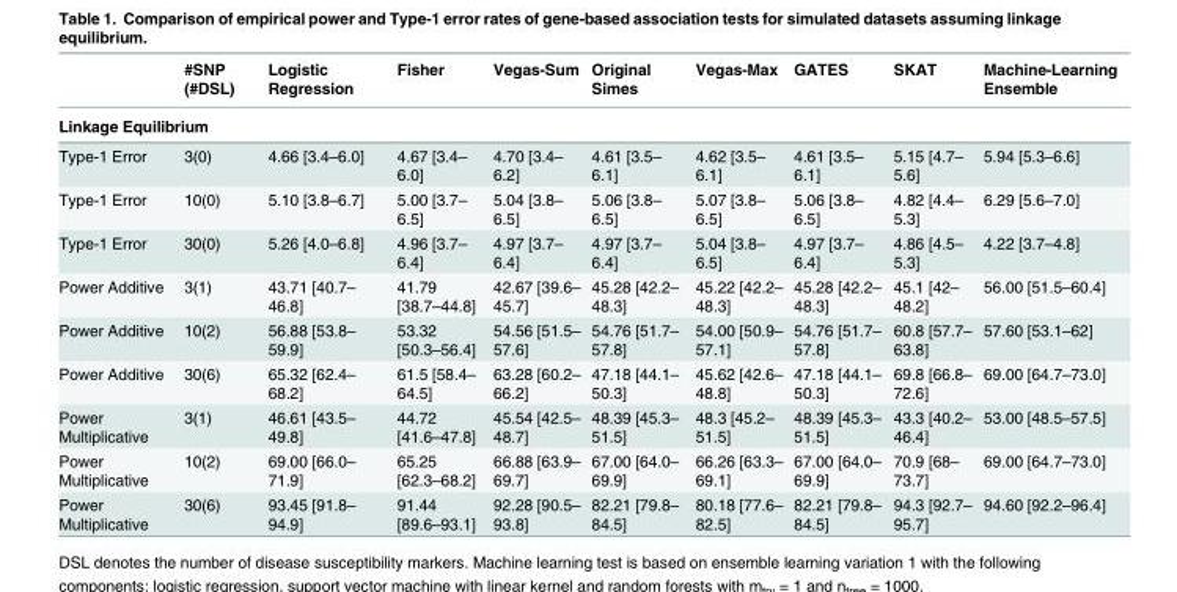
<table><thead><tr><td></td><td>#SNP (#DSL)</td><td>Logistic Regression</td><td>Fisher</td><td>Vegas-Sum</td><td>Original Simes</td><td>Vegas-Max</td><td>GATES</td><td>SKAT</td><td>Machine-Learning Ensemble</td></tr><tr><td colspan="10">Linkage Equilibrium</td></tr></thead><tbody><tr><td>Type-1 Error</td><td>3(0)</td><td>4.66 [3.4–6.0]</td><td>4.67 [3.4– 6.0]</td><td>4.70 [3.4– 6.2]</td><td>4.61 [3.5– 6.1]</td><td>4.62 [3.5– 6.1]</td><td>4.61 [3.5– 6.1]</td><td>5.15 [4.7– 5.6]</td><td>5.94 [5.3–6.6]</td></tr><tr><td>Type-1 Error</td><td>10(0)</td><td>5.10 [3.8–6.7]</td><td>5.00 [3.7– 6.5]</td><td>5.04 [3.8– 6.5]</td><td>5.06 [3.8– 6.5]</td><td>5.07 [3.8– 6.5]</td><td>5.06 [3.8– 6.5]</td><td>4.82 [4.4– 5.3]</td><td>6.29 [5.6–7.0]</td></tr><tr><td>Type-1 Error</td><td>30(0)</td><td>5.26 [4.0–6.8]</td><td>4.96 [3.7– 6.4]</td><td>4.97 [3.7– 6.4]</td><td>4.97 [3.7– 6.4]</td><td>5.04 [3.8– 6.5]</td><td>4.97 [3.7– 6.4]</td><td>4.86 [4.5– 5.3]</td><td>4.22 [3.7–4.8]</td></tr><tr><td>Power Additive</td><td>3(1)</td><td>43.71 [40.7– 46.8]</td><td>41.79 [38.7–44.8]</td><td>42.67 [39.6– 45.7]</td><td>45.28 [42.2– 48.3]</td><td>45.22 [42.2– 48.3]</td><td>45.28 [42.2– 48.3]</td><td>45.1 [42– 48.2]</td><td>56.00 [51.5–60.4]</td></tr><tr><td>Power Additive</td><td>10(2)</td><td>56.88 [53.8– 59.9]</td><td>53.32 [50.3–56.4]</td><td>54.56 [51.5– 57.6]</td><td>54.76 [51.7– 57.8]</td><td>54.00 [50.9– 57.1]</td><td>54.76 [51.7– 57.8]</td><td>60.8 [57.7– 63.8]</td><td>57.60 [53.1–62]</td></tr><tr><td>Power Additive</td><td>30(6)</td><td>65.32 [62.4– 68.2]</td><td>61.5 [58.4– 64.5]</td><td>63.28 [60.2– 66.2]</td><td>47.18 [44.1– 50.3]</td><td>45.62 [42.6– 48.8]</td><td>47.18 [44.1– 50.3]</td><td>69.8 [66.8– 72.6]</td><td>69.00 [64.7–73.0]</td></tr><tr><td>Power Multiplicative</td><td>3(1)</td><td>46.61 [43.5– 49.8]</td><td>44.72 [41.6–47.8]</td><td>45.54 [42.5– 48.7]</td><td>48.39 [45.3– 51.5]</td><td>48.3 [45.2– 51.5]</td><td>48.39 [45.3– 51.5]</td><td>43.3 [40.2– 46.4]</td><td>53.00 [48.5–57.5]</td></tr><tr><td>Power Multiplicative</td><td>10(2)</td><td>69.00 [66.0– 71.9]</td><td>65.25 [62.3–68.2]</td><td>66.88 [63.9– 69.7]</td><td>67.00 [64.0– 69.9]</td><td>66.26 [63.3– 69.1]</td><td>67.00 [64.0– 69.9]</td><td>70.9 [68– 73.7]</td><td>69.00 [64.7–73.0]</td></tr><tr><td>Power Multiplicative</td><td>30(6)</td><td>93.45 [91.8– 94.9]</td><td>91.44 [89.6–93.1]</td><td>92.28 [90.5– 93.8]</td><td>82.21 [79.8– 84.5]</td><td>80.18 [77.6– 82.5]</td><td>82.21 [79.8– 84.5]</td><td>94.3 [92.7– 95.7]</td><td>94.60 [92.2–96.4]</td></tr></tbody></table>